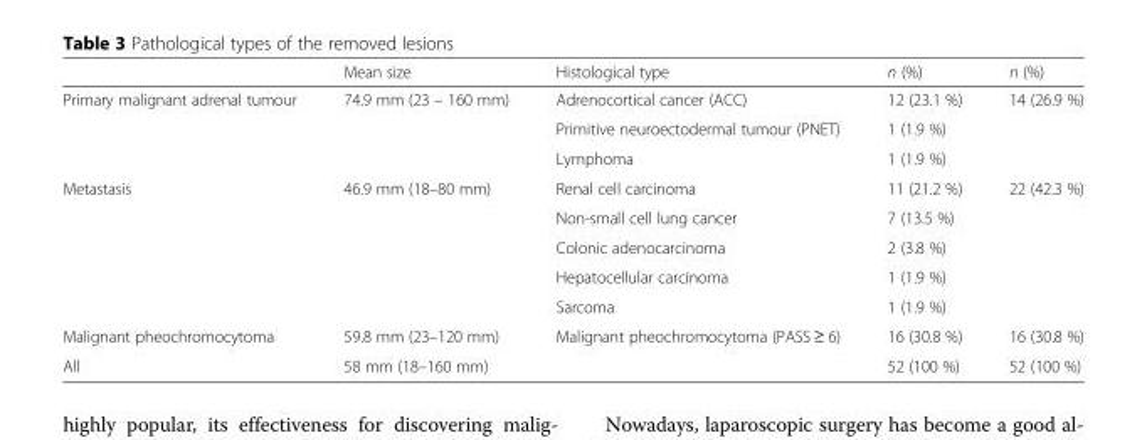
<table><thead><tr><td></td><td>Mean size</td><td>Histological type</td><td>n (%)</td><td>n (%)</td></tr></thead><tbody><tr><td rowspan="3">Primary malignant adrenal tumour</td><td rowspan="3">74.9 mm (23 – 160 mm)</td><td>Adrenocortical cancer (ACC)</td><td>12 (23.1 %)</td><td rowspan="3">14 (26.9 %)</td></tr><tr><td>Primitive neuroectodermal tumour (PNET)</td><td>1 (1.9 %)</td></tr><tr><td>Lymphoma</td><td>1 (1.9 %)</td></tr><tr><td rowspan="5">Metastasis</td><td rowspan="5">46.9 mm (18–80 mm)</td><td>Renal cell carcinoma</td><td>11 (21.2 %)</td><td rowspan="5">22 (42.3 %)</td></tr><tr><td>Non-small cell lung cancer</td><td>7 (13.5 %)</td></tr><tr><td>Colonic adenocarcinoma</td><td>2 (3.8 %)</td></tr><tr><td>Hepatocellular carcinoma</td><td>1 (1.9 %)</td></tr><tr><td>Sarcoma</td><td>1 (1.9 %)</td></tr><tr><td>Malignant pheochromocytoma</td><td>59.8 mm (23–120 mm)</td><td>Malignant pheochromocytoma (PASS ≥ 6)</td><td>16 (30.8 %)</td><td>16 (30.8 %)</td></tr><tr><td>All</td><td>58 mm (18–160 mm)</td><td></td><td>52 (100 %)</td><td>52 (100 %)</td></tr></tbody></table>